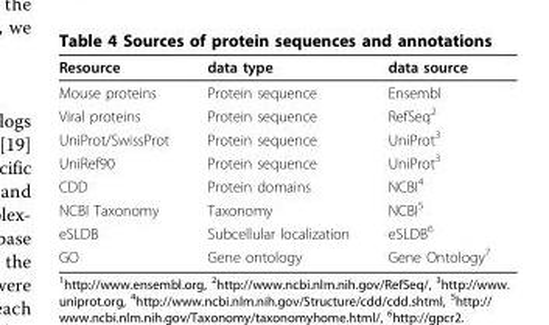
<table><thead><tr><td>Resource</td><td>data type</td><td>data source</td></tr></thead><tbody><tr><td>Mouse proteins</td><td>Protein sequence</td><td>Ensembl</td></tr><tr><td>Viral proteins</td><td>Protein sequence</td><td>RefSeq<sup>2</sup></td></tr><tr><td>UniProt/SwissProt</td><td>Protein sequence</td><td>UniProt<sup>3</sup></td></tr><tr><td>UniRef90</td><td>Protein sequence</td><td>UniProt<sup>3</sup></td></tr><tr><td>CDD</td><td>Protein domains</td><td>NCBI<sup>4</sup></td></tr><tr><td>NCBI Taxonomy</td><td>Taxonomy</td><td>NCBI<sup>5</sup></td></tr><tr><td>eSLDB</td><td>Subcellular localization</td><td>eSLDB<sup>6</sup></td></tr><tr><td>GO</td><td>Gene ontology</td><td>Gene Ontology<sup>7</sup></td></tr></tbody></table>